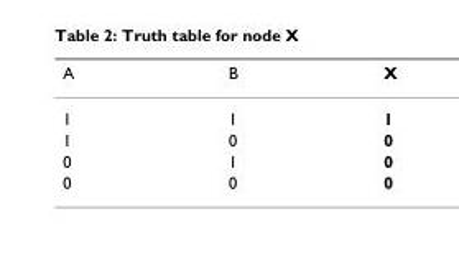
<table><thead><tr><td>A</td><td>B</td><td>X</td></tr></thead><tbody><tr><td>1</td><td>1</td><td>1</td></tr><tr><td>1</td><td>0</td><td>0</td></tr><tr><td>0</td><td>1</td><td>0</td></tr><tr><td>0</td><td>0</td><td>0</td></tr></tbody></table>